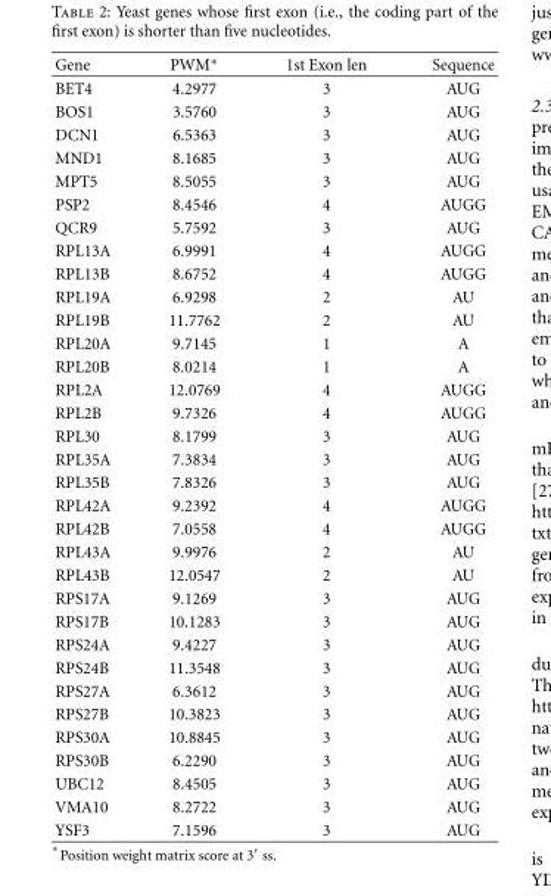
<table><thead><tr><td>Gene</td><td>PWM∗</td><td>1st Exon len</td><td>Sequence</td></tr></thead><tbody><tr><td>BET4</td><td>4.2977</td><td>3</td><td>AUG</td></tr><tr><td>BOS1</td><td>3.5760</td><td>3</td><td>AUG</td></tr><tr><td>DCN1</td><td>6.5363</td><td>3</td><td>AUG</td></tr><tr><td>MND1</td><td>8.1685</td><td>3</td><td>AUG</td></tr><tr><td>MPT5</td><td>8.5055</td><td>3</td><td>AUG</td></tr><tr><td>PSP2</td><td>8.4546</td><td>4</td><td>AUGG</td></tr><tr><td>QCR9</td><td>5.7592</td><td>3</td><td>AUG</td></tr><tr><td>RPL13A</td><td>6.9991</td><td>4</td><td>AUGG</td></tr><tr><td>RPL13B</td><td>8.6752</td><td>4</td><td>AUGG</td></tr><tr><td>RPL19A</td><td>6.9298</td><td>2</td><td>AU</td></tr><tr><td>RPL19B</td><td>11.7762</td><td>2</td><td>AU</td></tr><tr><td>RPL20A</td><td>9.7145</td><td>1</td><td>A</td></tr><tr><td>RPL20B</td><td>8.0214</td><td>1</td><td>A</td></tr><tr><td>RPL2A</td><td>12.0769</td><td>4</td><td>AUGG</td></tr><tr><td>RPL2B</td><td>9.7326</td><td>4</td><td>AUGG</td></tr><tr><td>RPL30</td><td>8.1799</td><td>3</td><td>AUG</td></tr><tr><td>RPL35A</td><td>7.3834</td><td>3</td><td>AUG</td></tr><tr><td>RPL35B</td><td>7.8326</td><td>3</td><td>AUG</td></tr><tr><td>RPL42A</td><td>9.2392</td><td>4</td><td>AUGG</td></tr><tr><td>RPL42B</td><td>7.0558</td><td>4</td><td>AUGG</td></tr><tr><td>RPL43A</td><td>9.9976</td><td>2</td><td>AU</td></tr><tr><td>RPL43B</td><td>12.0547</td><td>2</td><td>AU</td></tr><tr><td>RPS17A</td><td>9.1269</td><td>3</td><td>AUG</td></tr><tr><td>RPS17B</td><td>10.1283</td><td>3</td><td>AUG</td></tr><tr><td>RPS24A</td><td>9.4227</td><td>3</td><td>AUG</td></tr><tr><td>RPS24B</td><td>11.3548</td><td>3</td><td>AUG</td></tr><tr><td>RPS27A</td><td>6.3612</td><td>3</td><td>AUG</td></tr><tr><td>RPS27B</td><td>10.3823</td><td>3</td><td>AUG</td></tr><tr><td>RPS30A</td><td>10.8845</td><td>3</td><td>AUG</td></tr><tr><td>RPS30B</td><td>6.2290</td><td>3</td><td>AUG</td></tr><tr><td>UBC12</td><td>8.4505</td><td>3</td><td>AUG</td></tr><tr><td>VMA10</td><td>8.2722</td><td>3</td><td>AUG</td></tr><tr><td>YSF3</td><td>7.1596</td><td>3</td><td>AUG</td></tr></tbody></table>